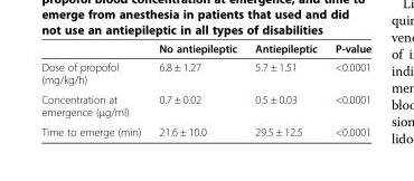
<table><thead><tr><td></td><td>No antiepileptic</td><td>Antiepileptic</td><td>P-value</td></tr></thead><tbody><tr><td>Dose of propofol (mg/kg/h)</td><td>6.8 ± 1.27</td><td>5.7 ± 1.51</td><td>&lt;0.0001</td></tr><tr><td>Concentration at emergence (μg/ml)</td><td>0.7 ± 0.02</td><td>0.5 ± 0.03</td><td>&lt;0.0001</td></tr><tr><td>Time to emerge (min)</td><td>21.6 ± 10.0</td><td>29.5 ± 12.5</td><td>&lt;0.0001</td></tr></tbody></table>